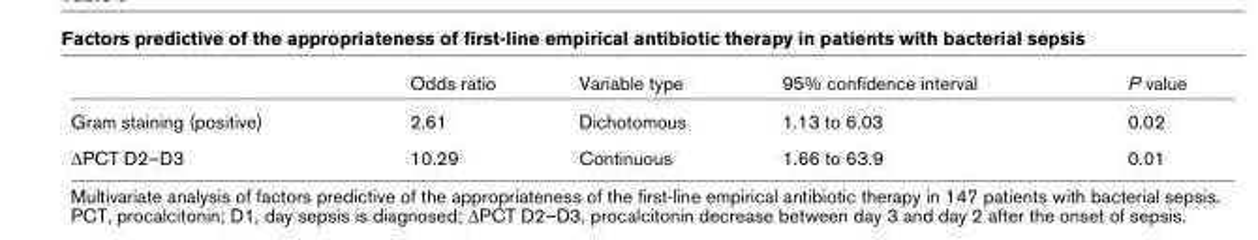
<table><thead><tr><td></td><td>Odds ratio</td><td>Variable type</td><td>95% confidence interval</td><td>P value</td></tr></thead><tbody><tr><td>Gram staining (positive)</td><td>2.61</td><td>Dichotomous</td><td>1.13 to 6.03</td><td>0.02</td></tr><tr><td>ΔPCT D2–D3</td><td>10.29</td><td>Continuous</td><td>1.66 to 63.9</td><td>0.01</td></tr></tbody></table>